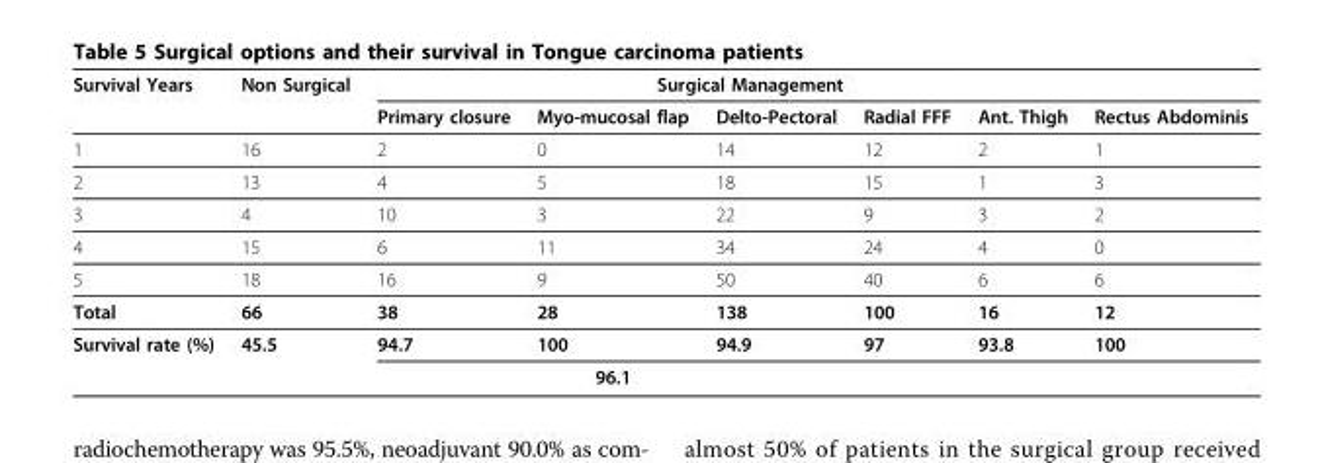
<table><thead><tr><td rowspan="2">Survival Years</td><td rowspan="2">Non Surgical</td><td rowspan="2">Primary closure</td><td colspan="3">Surgical Management</td><td rowspan="2">Ant. Thigh</td><td rowspan="2">Rectus Abdominis</td></tr><tr><td>Myo-mucosal flap</td><td>Delto-Pectoral</td><td>Radial FFF</td></tr></thead><tbody><tr><td>1</td><td>16</td><td>2</td><td>0</td><td>14</td><td>12</td><td>2</td><td>1</td></tr><tr><td>2</td><td>13</td><td>4</td><td>5</td><td>18</td><td>15</td><td>1</td><td>3</td></tr><tr><td>3</td><td>4</td><td>10</td><td>3</td><td>22</td><td>9</td><td>3</td><td>2</td></tr><tr><td>4</td><td>15</td><td>6</td><td>11</td><td>34</td><td>24</td><td>4</td><td>0</td></tr><tr><td>5</td><td>18</td><td>16</td><td>9</td><td>50</td><td>40</td><td>6</td><td>6</td></tr><tr><td>Total</td><td>66</td><td>38</td><td>28</td><td>138</td><td>100</td><td>16</td><td>12</td></tr><tr><td rowspan="2">Survival rate (%)</td><td>45.5</td><td>94.7</td><td>100</td><td>94.9</td><td>97</td><td>93.8</td><td>100</td></tr><tr><td></td><td colspan="3">96.1</td><td></td><td></td><td></td></tr></tbody></table>